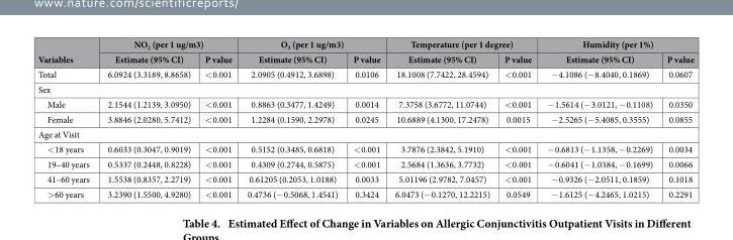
<table><thead><tr><td rowspan="2">Variables</td><td colspan="2">NO<sub>2</sub> (per 1 ug/m3)</td><td colspan="2">O<sub>3</sub> (per 1 ug/m3)</td><td colspan="2">Temperature (per 1 degree)</td><td colspan="2">Humidity (per 1%)</td></tr><tr><td>Estimate (95% CI)</td><td>P value</td><td>Estimate (95% CI)</td><td>P value</td><td>Estimate (95% CI)</td><td>P value</td><td>Estimate (95% CI)</td><td>P value</td></tr></thead><tbody><tr><td>Total</td><td>6.0924 (3.3189, 8.8658)</td><td>&lt; 0.001</td><td>2.0905 (0.4912, 3.6898)</td><td>0.0106</td><td>18.1008 (7.7422, 28.4594)</td><td>&lt; 0.001</td><td>− 4.1086 (− 8.4040, 0.1869)</td><td>0.0607</td></tr><tr><td colspan="9">Sex</td></tr><tr><td>Male</td><td>2.1544 (1.2139, 3.0950)</td><td>&lt; 0.001</td><td>0.8863 (0.3477, 1.4249)</td><td>0.0014</td><td>7.3758 (3.6772, 11.0744)</td><td>&lt; 0.001</td><td>− 1.5614 (− 3.0121, − 0.1108)</td><td>0.0350</td></tr><tr><td>Female</td><td>3.8846 (2.0280, 5.7412)</td><td>&lt; 0.001</td><td>1.2284 (0.1590, 2.2978)</td><td>0.0245</td><td>10.6889 (4.1300, 17.2478)</td><td>0.0015</td><td>− 2.5265 (− 5.4085, 0.3555)</td><td>0.0855</td></tr><tr><td colspan="9">Age at Visit</td></tr><tr><td>&lt; 18 years</td><td>0.6033 (0.3047, 0.9019)</td><td>&lt; 0.001</td><td>0.5152 (0.3485, 0.6818)</td><td>&lt; 0.001</td><td>3.7876 (2.3842, 5.1910)</td><td>&lt; 0.001</td><td>− 0.6813 (− 1.1358, − 0.2269)</td><td>0.0034</td></tr><tr><td>19–40 years</td><td>0.5337 (0.2448, 0.8228)</td><td>&lt; 0.001</td><td>0.4309 (0.2744, 0.5875)</td><td>&lt; 0.001</td><td>2.5684 (1.3636, 3.7732)</td><td>&lt; 0.001</td><td>− 0.6041 (− 1.0384, − 0.1699)</td><td>0.0066</td></tr><tr><td>41–60 years</td><td>1.5538 (0.8357, 2.2719)</td><td>&lt; 0.001</td><td>0.61205 (0.2053, 1.0188)</td><td>0.0033</td><td>5.01196 (2.9782, 7.0457)</td><td>&lt; 0.001</td><td>− 0.9326 (− 2.0511, 0.1859)</td><td>0.1018</td></tr><tr><td>&gt; 60 years</td><td>3.2390 (1.5500, 4.9280)</td><td>&lt; 0.001</td><td>0.4736 (− 0.5068, 1.4541)</td><td>0.3424</td><td>6.0473 (− 0.1270, 12.2215)</td><td>0.0549</td><td>− 1.6125 (− 4.2465, 1.0215)</td><td>0.2291</td></tr></tbody></table>